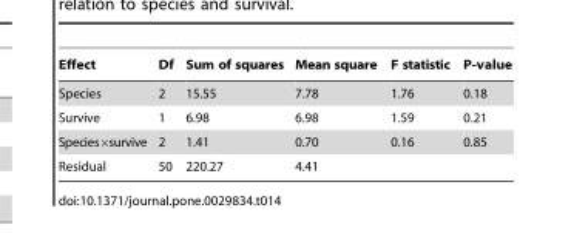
<table><thead><tr><td>Effect</td><td>Df</td><td>Sum of squares</td><td>Mean square</td><td>F statistic</td><td>P-value</td></tr></thead><tbody><tr><td>Species</td><td>2</td><td>15.55</td><td>7.78</td><td>1.76</td><td>0.18</td></tr><tr><td>Survive</td><td>1</td><td>6.98</td><td>6.98</td><td>1.59</td><td>0.21</td></tr><tr><td>Species×survive</td><td>2</td><td>1.41</td><td>0.70</td><td>0.16</td><td>0.85</td></tr><tr><td>Residual</td><td>50</td><td>220.27</td><td>4.41</td><td></td><td></td></tr></tbody></table>